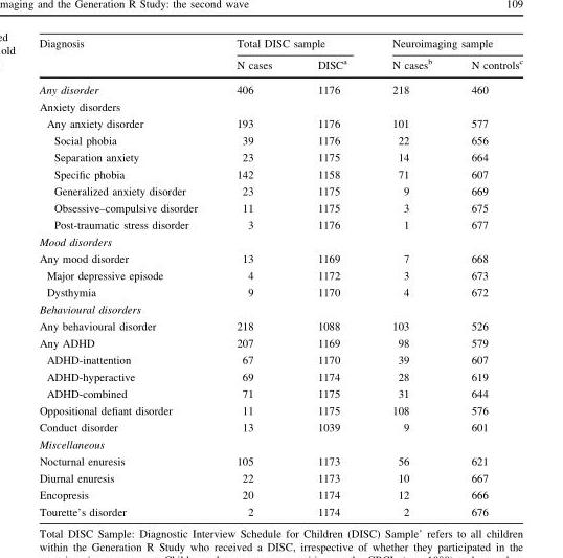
<table><thead><tr><td rowspan="2">Diagnosis</td><td colspan="2">Total DISC sample</td><td colspan="2">Neuroimaging sample</td></tr><tr><td>N cases</td><td>DISC<sup>a</sup></td><td>N cases<sup>b</sup></td><td>N controls<sup>c</sup></td></tr></thead><tbody><tr><td>Any disorder</td><td>406</td><td>1176</td><td>218</td><td>460</td></tr><tr><td colspan="5">Anxiety disorders</td></tr><tr><td>Any anxiety disorder</td><td>193</td><td>1176</td><td>101</td><td>577</td></tr><tr><td>Social phobia</td><td>39</td><td>1176</td><td>22</td><td>656</td></tr><tr><td>Separation anxiety</td><td>23</td><td>1175</td><td>14</td><td>664</td></tr><tr><td>Specific phobia</td><td>142</td><td>1158</td><td>71</td><td>607</td></tr><tr><td>Generalized anxiety disorder</td><td>23</td><td>1175</td><td>9</td><td>669</td></tr><tr><td>Obsessive–compulsive disorder</td><td>11</td><td>1175</td><td>3</td><td>675</td></tr><tr><td>Post-traumatic stress disorder</td><td>3</td><td>1176</td><td>1</td><td>677</td></tr><tr><td colspan="5">Mood disorders</td></tr><tr><td>Any mood disorder</td><td>13</td><td>1169</td><td>7</td><td>668</td></tr><tr><td>Major depressive episode</td><td>4</td><td>1172</td><td>3</td><td>673</td></tr><tr><td>Dysthymia</td><td>9</td><td>1170</td><td>4</td><td>672</td></tr><tr><td colspan="5">Behavioural disorders</td></tr><tr><td>Any behavioural disorder</td><td>218</td><td>1088</td><td>103</td><td>526</td></tr><tr><td>Any ADHD</td><td>207</td><td>1169</td><td>98</td><td>579</td></tr><tr><td>ADHD-inattention</td><td>67</td><td>1170</td><td>39</td><td>607</td></tr><tr><td>ADHD-hyperactive</td><td>69</td><td>1174</td><td>28</td><td>619</td></tr><tr><td>ADHD-combined</td><td>71</td><td>1175</td><td>31</td><td>644</td></tr><tr><td>Oppositional defiant disorder</td><td>11</td><td>1175</td><td>108</td><td>576</td></tr><tr><td>Conduct disorder</td><td>13</td><td>1039</td><td>9</td><td>601</td></tr><tr><td colspan="5">Miscellaneous</td></tr><tr><td>Nocturnal enuresis</td><td>105</td><td>1173</td><td>56</td><td>621</td></tr><tr><td>Diurnal enuresis</td><td>22</td><td>1173</td><td>10</td><td>667</td></tr><tr><td>Encopresis</td><td>20</td><td>1174</td><td>12</td><td>666</td></tr><tr><td>Tourette’s disorder</td><td>2</td><td>1174</td><td>2</td><td>676</td></tr></tbody></table>